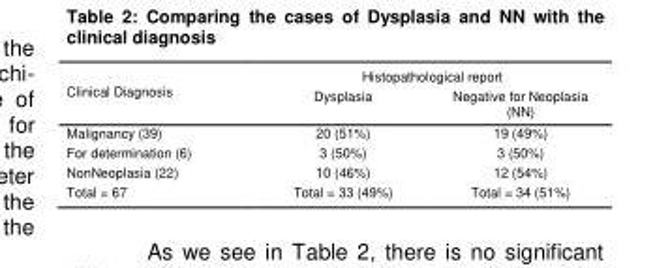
<table><thead><tr><td rowspan="2">Clinical Diagnosis</td><td colspan="2">Histopathological report</td></tr><tr><td>Dysplasia</td><td>Negative for Neoplasia (NN)</td></tr></thead><tbody><tr><td>Malignancy (39)</td><td>20 (51%)</td><td>19 (49%)</td></tr><tr><td>For determination (6)</td><td>3 (50%)</td><td>3 (50%)</td></tr><tr><td>NonNeoplasia (22)</td><td>10 (46%)</td><td>12 (54%)</td></tr><tr><td>Total = 67</td><td>Total = 33 (49%)</td><td>Total = 34 (51%)</td></tr></tbody></table>